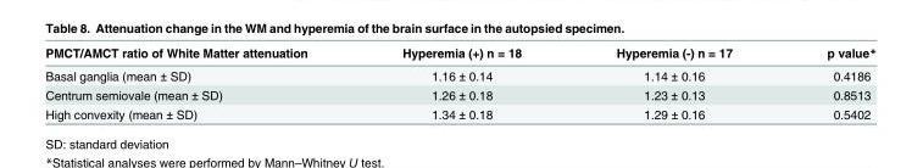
<table><thead><tr><td>PMCT/AMCT ratio of White Matter attenuation</td><td>Hyperemia (+) n = 18</td><td>Hyperemia (-) n = 17</td><td>p value*</td></tr></thead><tbody><tr><td>Basal ganglia (mean ± SD)</td><td>1.16 ± 0.14</td><td>1.14 ± 0.16</td><td>0.4186</td></tr><tr><td>Centrum semiovale (mean ± SD)</td><td>1.26 ± 0.18</td><td>1.23 ± 0.13</td><td>0.8513</td></tr><tr><td>High convexity (mean ± SD)</td><td>1.34 ± 0.18</td><td>1.29 ± 0.16</td><td>0.5402</td></tr></tbody></table>